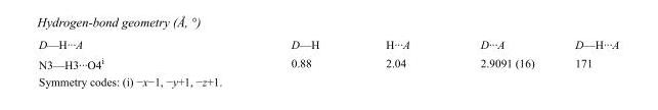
<table><tbody><tr><td>D—H···A</td><td>D—H</td><td>H···A</td><td>D···A</td><td>D—H···A</td></tr><tr><td>N3—H3···O4<sup>i</sup></td><td>0.88</td><td>2.04</td><td>2.9091 (16)</td><td>171</td></tr></tbody></table>